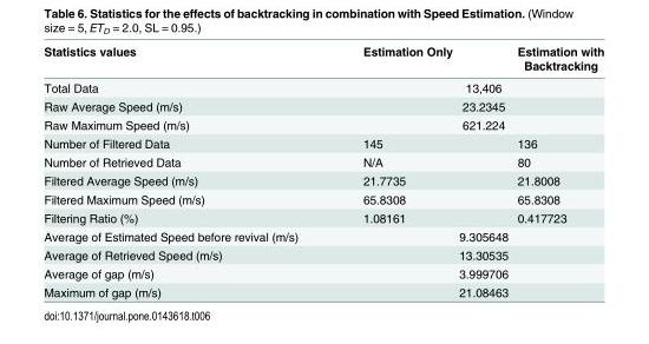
<table><thead><tr><td>Statistics values</td><td>Estimation Only</td><td>Estimation with Backtracking</td></tr></thead><tbody><tr><td>Total Data</td><td colspan="2">13,406</td></tr><tr><td>Raw Average Speed (m/s)</td><td colspan="2">23.2345</td></tr><tr><td>Raw Maximum Speed (m/s)</td><td colspan="2">621.224</td></tr><tr><td>Number of Filtered Data</td><td>145</td><td>136</td></tr><tr><td>Number of Retrieved Data</td><td>N/A</td><td>80</td></tr><tr><td>Filtered Average Speed (m/s)</td><td>21.7735</td><td>21.8008</td></tr><tr><td>Filtered Maximum Speed (m/s)</td><td>65.8308</td><td>65.8308</td></tr><tr><td>Filtering Ratio (%)</td><td>1.08161</td><td>0.417723</td></tr><tr><td>Average of Estimated Speed before revival (m/s)</td><td colspan="2">9.305648</td></tr><tr><td>Average of Retrieved Speed (m/s)</td><td colspan="2">13.30535</td></tr><tr><td>Average of gap (m/s)</td><td colspan="2">3.999706</td></tr><tr><td>Maximum of gap (m/s)</td><td colspan="2">21.08463</td></tr></tbody></table>